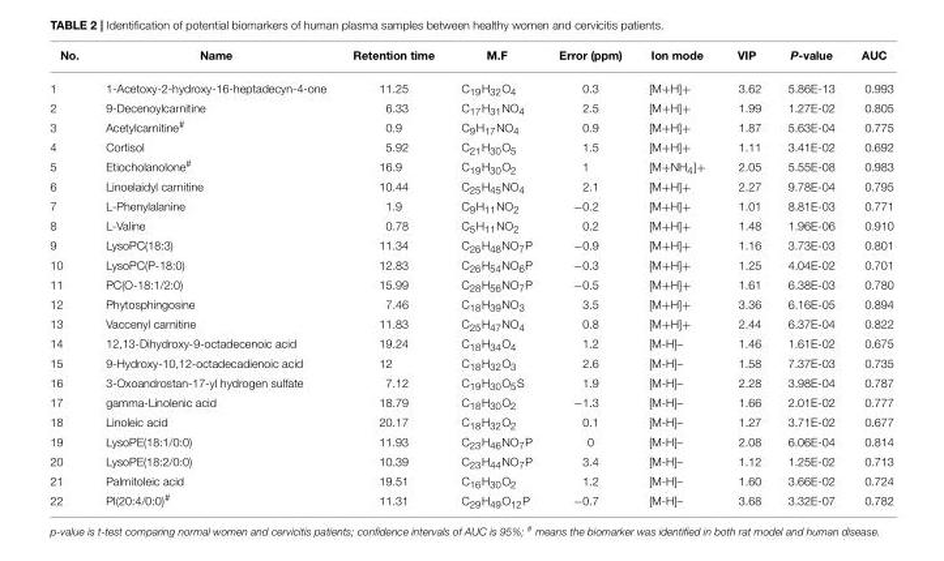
<table><thead><tr><td>No.</td><td>Name</td><td>Retention time</td><td>M.F</td><td>Error (ppm)</td><td>Ion mode</td><td>VIP</td><td>P-value</td><td>AUC</td></tr></thead><tbody><tr><td>1</td><td>1-Acetoxy-2-hydroxy-16-heptadecyn-4-one</td><td>11.25</td><td>C<sub>19</sub>H<sub>32</sub>O<sub>4</sub></td><td>0.3</td><td>[M+H]+</td><td>3.62</td><td>5.86E-13</td><td>0.993</td></tr><tr><td>2</td><td>9-Decenoylcarnitine</td><td>6.33</td><td>C<sub>17</sub>H<sub>31</sub>NO<sub>4</sub></td><td>2.5</td><td>[M+H]+</td><td>1.99</td><td>1.27E-02</td><td>0.805</td></tr><tr><td>3</td><td>Acetylcarnitine<sup>#</sup></td><td>0.9</td><td>C<sub>9</sub>H<sub>17</sub>NO<sub>4</sub></td><td>0.9</td><td>[M+H]+</td><td>1.87</td><td>5.63E-04</td><td>0.775</td></tr><tr><td>4</td><td>Cortisol</td><td>5.92</td><td>C<sub>21</sub>H<sub>30</sub>O<sub>5</sub></td><td>1.5</td><td>[M+H]+</td><td>1.11</td><td>3.41E-02</td><td>0.692</td></tr><tr><td>5</td><td>Etiocholanolone<sup>#</sup></td><td>16.9</td><td>C<sub>19</sub>H<sub>30</sub>O<sub>2</sub></td><td>1</td><td>[M+NH<sub>4</sub>]+</td><td>2.05</td><td>5.55E-08</td><td>0.983</td></tr><tr><td>6</td><td>Linoelaidyl carnitine</td><td>10.44</td><td>C<sub>25</sub>H<sub>45</sub>NO<sub>4</sub></td><td>2.1</td><td>[M+H]+</td><td>2.27</td><td>9.78E-04</td><td>0.795</td></tr><tr><td>7</td><td>L-Phenylalanine</td><td>1.9</td><td>C<sub>9</sub>H<sub>11</sub>NO<sub>2</sub></td><td>−0.2</td><td>[M+H]+</td><td>1.01</td><td>8.81E-03</td><td>0.771</td></tr><tr><td>8</td><td>L-Valine</td><td>0.78</td><td>C<sub>5</sub>H<sub>11</sub>NO<sub>2</sub></td><td>0.2</td><td>[M+H]+</td><td>1.48</td><td>1.96E-06</td><td>0.910</td></tr><tr><td>9</td><td>LysoPC(18:3)</td><td>11.34</td><td>C<sub>26</sub>H<sub>48</sub>NO<sub>7</sub>P</td><td>−0.9</td><td>[M+H]+</td><td>1.16</td><td>3.73E-03</td><td>0.801</td></tr><tr><td>10</td><td>LysoPC(P-18:0)</td><td>12.83</td><td>C<sub>26</sub>H<sub>54</sub>NO<sub>6</sub>P</td><td>−0.3</td><td>[M+H]+</td><td>1.25</td><td>4.04E-02</td><td>0.701</td></tr><tr><td>11</td><td>PC(O-18:1/2:0)</td><td>15.99</td><td>C<sub>28</sub>H<sub>56</sub>NO<sub>7</sub>P</td><td>−0.5</td><td>[M+H]+</td><td>1.61</td><td>6.38E-03</td><td>0.780</td></tr><tr><td>12</td><td>Phytosphingosine</td><td>7.46</td><td>C<sub>18</sub>H<sub>39</sub>NO<sub>3</sub></td><td>3.5</td><td>[M+H]+</td><td>3.36</td><td>6.16E-05</td><td>0.894</td></tr><tr><td>13</td><td>Vaccenyl carnitine</td><td>11.83</td><td>C<sub>25</sub>H<sub>47</sub>NO<sub>4</sub></td><td>0.8</td><td>[M+H]+</td><td>2.44</td><td>6.37E-04</td><td>0.822</td></tr><tr><td>14</td><td>12,13-Dihydroxy-9-octadecenoic acid</td><td>19.24</td><td>C<sub>18</sub>H<sub>34</sub>O<sub>4</sub></td><td>1.2</td><td>[M-H]–</td><td>1.46</td><td>1.61E-02</td><td>0.675</td></tr><tr><td>15</td><td>9-Hydroxy-10,12-octadecadienoic acid</td><td>12</td><td>C<sub>18</sub>H<sub>32</sub>O<sub>3</sub></td><td>2.6</td><td>[M-H]–</td><td>1.58</td><td>7.37E-03</td><td>0.735</td></tr><tr><td>16</td><td>3-Oxoandrostan-17-yl hydrogen sulfate</td><td>7.12</td><td>C<sub>19</sub>H<sub>30</sub>O<sub>5</sub>S</td><td>1.9</td><td>[M-H]–</td><td>2.28</td><td>3.98E-04</td><td>0.787</td></tr><tr><td>17</td><td>gamma-Linolenic acid</td><td>18.79</td><td>C<sub>18</sub>H<sub>30</sub>O<sub>2</sub></td><td>−1.3</td><td>[M-H]–</td><td>1.66</td><td>2.01E-02</td><td>0.777</td></tr><tr><td>18</td><td>Linoleic acid</td><td>20.17</td><td>C<sub>18</sub>H<sub>32</sub>O<sub>2</sub></td><td>0.1</td><td>[M-H]–</td><td>1.27</td><td>3.71E-02</td><td>0.677</td></tr><tr><td>19</td><td>LysoPE(18:1/0:0)</td><td>11.93</td><td>C<sub>23</sub>H<sub>46</sub>NO<sub>7</sub>P</td><td>0</td><td>[M-H]–</td><td>2.08</td><td>6.06E-04</td><td>0.814</td></tr><tr><td>20</td><td>LysoPE(18:2/0:0)</td><td>10.39</td><td>C<sub>23</sub>H<sub>44</sub>NO<sub>7</sub>P</td><td>3.4</td><td>[M-H]–</td><td>1.12</td><td>1.25E-02</td><td>0.713</td></tr><tr><td>21</td><td>Palmitoleic acid</td><td>19.51</td><td>C<sub>16</sub>H<sub>30</sub>O<sub>2</sub></td><td>1.2</td><td>[M-H]–</td><td>1.60</td><td>3.66E-02</td><td>0.724</td></tr><tr><td>22</td><td>PI(20:4/0:0)<sup>#</sup></td><td>11.31</td><td>C<sub>29</sub>H<sub>49</sub>O<sub>12</sub>P</td><td>−0.7</td><td>[M-H]–</td><td>3.68</td><td>3.32E-07</td><td>0.782</td></tr></tbody></table>